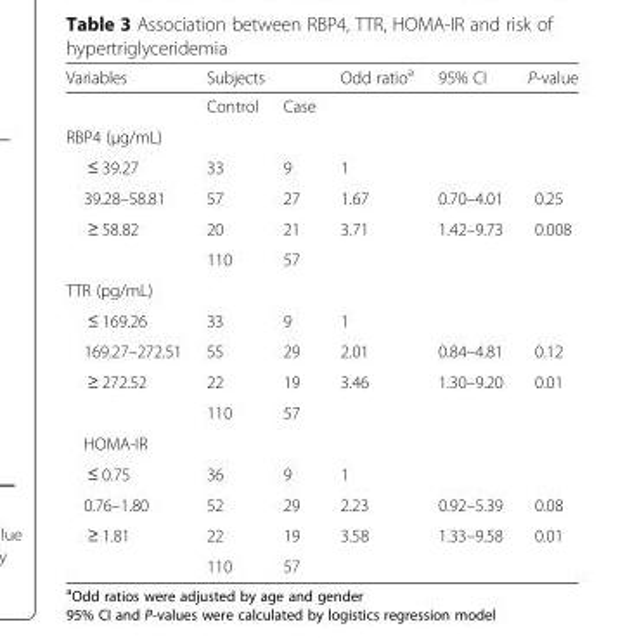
<table><thead><tr><td rowspan="2">Variables</td><td colspan="2">Subjects</td><td rowspan="2">Odd ratio<sup>a</sup></td><td rowspan="2">95% CI</td><td rowspan="2">P-value</td></tr><tr><td>Control</td><td>Case</td></tr></thead><tbody><tr><td colspan="6">RBP4 (μg/mL)</td></tr><tr><td>≤ 39.27</td><td>33</td><td>9</td><td>1</td><td></td><td></td></tr><tr><td>39.28–58.81</td><td>57</td><td>27</td><td>1.67</td><td>0.70–4.01</td><td>0.25</td></tr><tr><td rowspan="2">≥ 58.82</td><td>20</td><td>21</td><td>3.71</td><td>1.42–9.73</td><td>0.008</td></tr><tr><td>110</td><td>57</td><td></td><td></td><td></td></tr><tr><td colspan="6">TTR (pg/mL)</td></tr><tr><td>≤ 169.26</td><td>33</td><td>9</td><td>1</td><td></td><td></td></tr><tr><td>169.27–272.51</td><td>55</td><td>29</td><td>2.01</td><td>0.84–4.81</td><td>0.12</td></tr><tr><td rowspan="2">≥ 272.52</td><td>22</td><td>19</td><td>3.46</td><td>1.30–9.20</td><td>0.01</td></tr><tr><td>110</td><td>57</td><td></td><td></td><td></td></tr><tr><td colspan="6">HOMA-IR</td></tr><tr><td>≤ 0.75</td><td>36</td><td>9</td><td>1</td><td></td><td></td></tr><tr><td>0.76–1.80</td><td>52</td><td>29</td><td>2.23</td><td>0.92–5.39</td><td>0.08</td></tr><tr><td rowspan="2">≥ 1.81</td><td>22</td><td>19</td><td>3.58</td><td>1.33–9.58</td><td>0.01</td></tr><tr><td>110</td><td>57</td><td></td><td></td><td></td></tr></tbody></table>